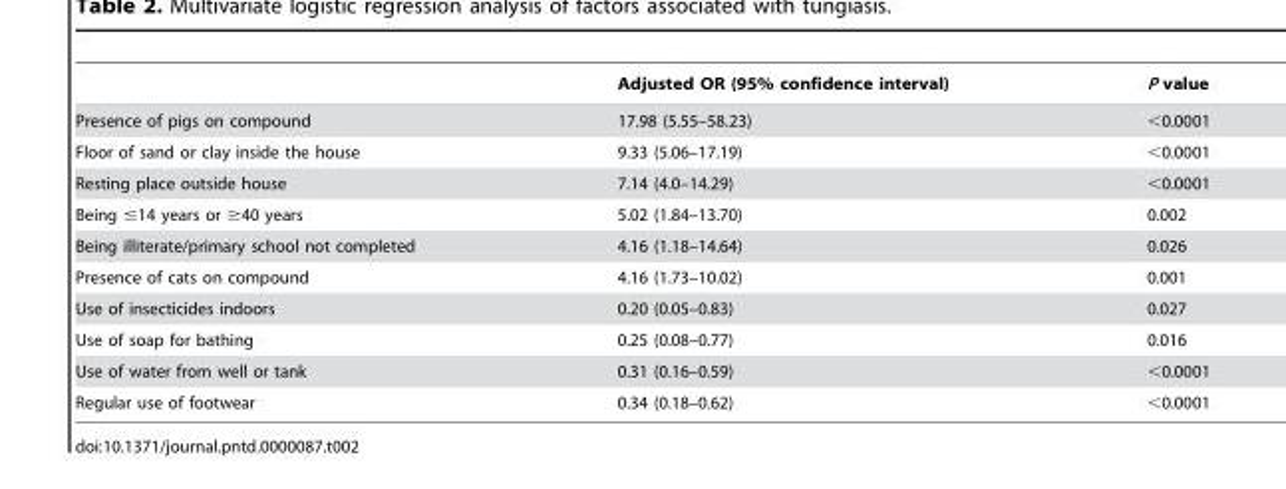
<table><thead><tr><td></td><td>Adjusted OR (95% confidence interval)</td><td>P value</td></tr></thead><tbody><tr><td>Presence of pigs on compound</td><td>17.98 (5.55–58.23)</td><td>&lt;0.0001</td></tr><tr><td>Floor of sand or clay inside the house</td><td>9.33 (5.06–17.19)</td><td>&lt;0.0001</td></tr><tr><td>Resting place outside house</td><td>7.14 (4.0–14.29)</td><td>&lt;0.0001</td></tr><tr><td>Being ≤14 years or ≥40 years</td><td>5.02 (1.84–13.70)</td><td>0.002</td></tr><tr><td>Being illiterate/primary school not completed</td><td>4.16 (1.18–14.64)</td><td>0.026</td></tr><tr><td>Presence of cats on compound</td><td>4.16 (1.73–10.02)</td><td>0.001</td></tr><tr><td>Use of insecticides indoors</td><td>0.20 (0.05–0.83)</td><td>0.027</td></tr><tr><td>Use of soap for bathing</td><td>0.25 (0.08–0.77)</td><td>0.016</td></tr><tr><td>Use of water from well or tank</td><td>0.31 (0.16–0.59)</td><td>&lt;0.0001</td></tr><tr><td>Regular use of footwear</td><td>0.34 (0.18–0.62)</td><td>&lt;0.0001</td></tr></tbody></table>